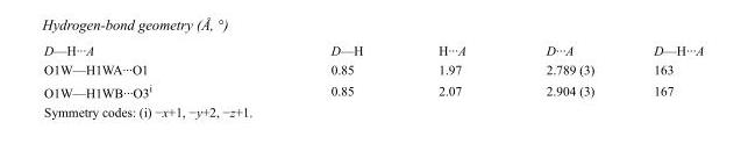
<table><tbody><tr><td>D—H···A</td><td>D—H</td><td>H···A</td><td>D···A</td><td>D—H···A</td></tr><tr><td>O1W—H1WA···O1</td><td>0.85</td><td>1.97</td><td>2.789 (3)</td><td>163</td></tr><tr><td>O1W—H1WB···O3<sup>i</sup></td><td>0.85</td><td>2.07</td><td>2.904 (3)</td><td>167</td></tr></tbody></table>